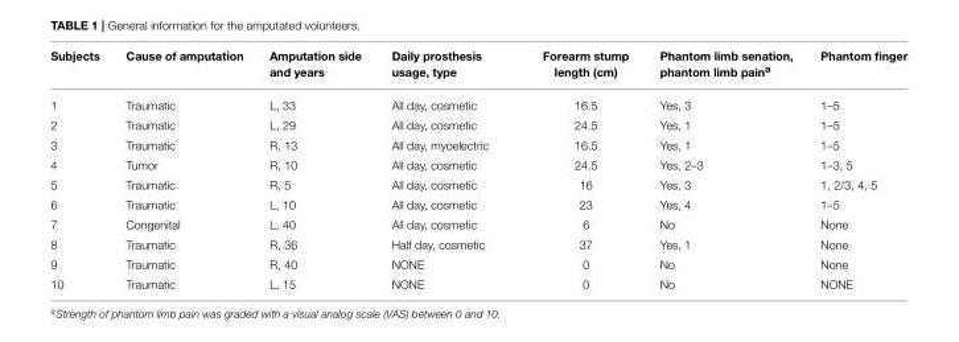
<table><thead><tr><td>Subjects</td><td>Cause of amputation</td><td>Amputation side and years</td><td>Daily prosthesis usage, type</td><td>Forearm stump length (cm)</td><td>Phantom limb senation, phantom limb pain<sup>a</sup></td><td>Phantom finger</td></tr></thead><tbody><tr><td>1</td><td>Traumatic</td><td>L, 33</td><td>All day, cosmetic</td><td>16.5</td><td>Yes, 3</td><td>1–5</td></tr><tr><td>2</td><td>Traumatic</td><td>L, 29</td><td>All day, cosmetic</td><td>24.5</td><td>Yes, 1</td><td>1–5</td></tr><tr><td>3</td><td>Traumatic</td><td>R, 13</td><td>All day, myoelectric</td><td>16.5</td><td>Yes, 1</td><td>1–5</td></tr><tr><td>4</td><td>Tumor</td><td>R, 10</td><td>All day, cosmetic</td><td>24.5</td><td>Yes, 2–3</td><td>1–3, 5</td></tr><tr><td>5</td><td>Traumatic</td><td>R, 5</td><td>All day, cosmetic</td><td>16</td><td>Yes, 3</td><td>1, 2/3, 4, 5</td></tr><tr><td>6</td><td>Traumatic</td><td>L, 10</td><td>All day, cosmetic</td><td>23</td><td>Yes, 4</td><td>1–5</td></tr><tr><td>7</td><td>Congenital</td><td>L, 40</td><td>All day, cosmetic</td><td>6</td><td>No</td><td>None</td></tr><tr><td>8</td><td>Traumatic</td><td>R, 36</td><td>Half day, cosmetic</td><td>37</td><td>Yes, 1</td><td>None</td></tr><tr><td>9</td><td>Traumatic</td><td>R, 40</td><td>NONE</td><td>0</td><td>No</td><td>None</td></tr><tr><td>10</td><td>Traumatic</td><td>L, 15</td><td>NONE</td><td>0</td><td>No</td><td>NONE</td></tr></tbody></table>